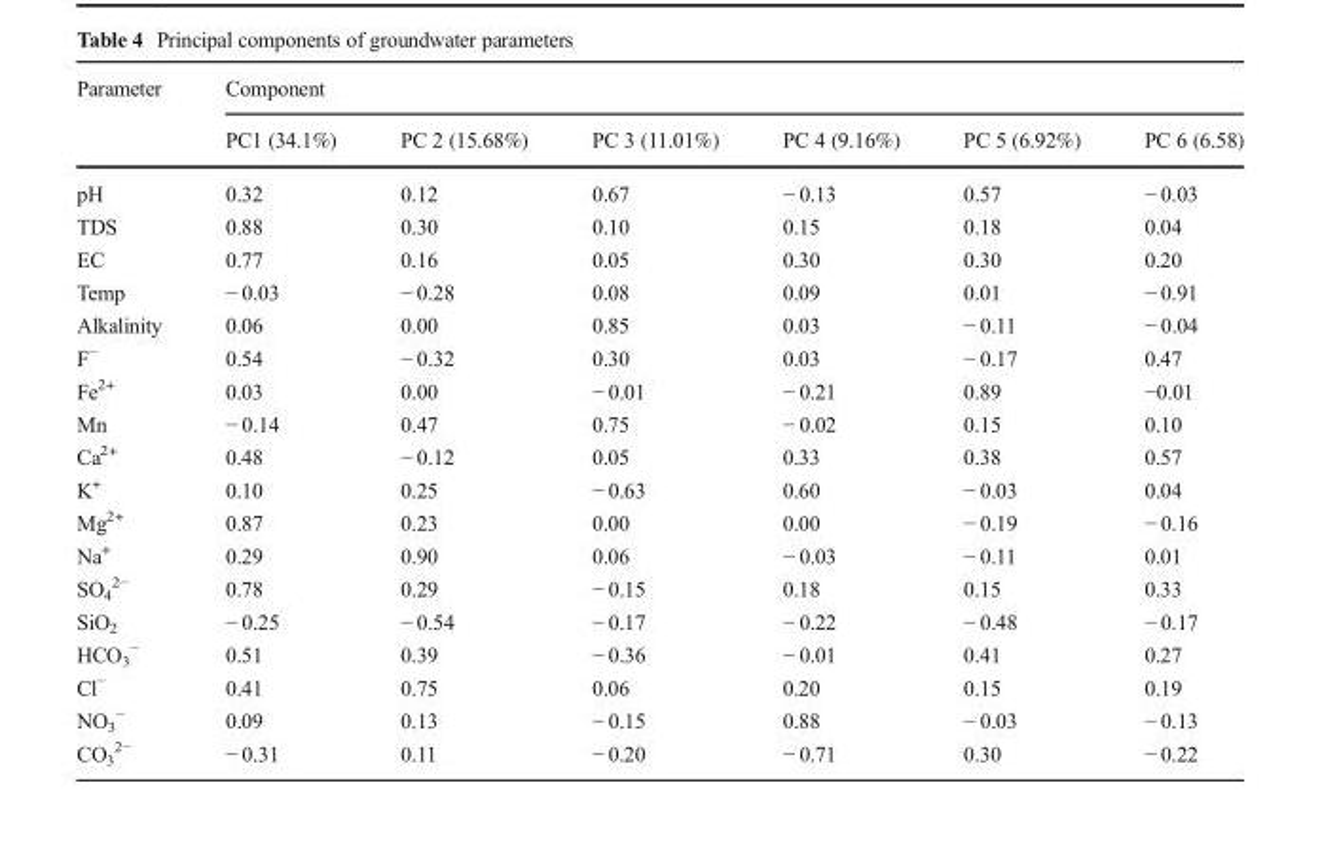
<table><thead><tr><td rowspan="2">Parameter</td><td colspan="6">Component</td></tr><tr><td>PC1 (34.1%)</td><td>PC 2 (15.68%)</td><td>PC 3 (11.01%)</td><td>PC 4 (9.16%)</td><td>PC 5 (6.92%)</td><td>PC 6 (6.58)</td></tr></thead><tbody><tr><td>pH</td><td>0.32</td><td>0.12</td><td>0.67</td><td>− 0.13</td><td>0.57</td><td>− 0.03</td></tr><tr><td>TDS</td><td>0.88</td><td>0.30</td><td>0.10</td><td>0.15</td><td>0.18</td><td>0.04</td></tr><tr><td>EC</td><td>0.77</td><td>0.16</td><td>0.05</td><td>0.30</td><td>0.30</td><td>0.20</td></tr><tr><td>Temp</td><td>− 0.03</td><td>− 0.28</td><td>0.08</td><td>0.09</td><td>0.01</td><td>− 0.91</td></tr><tr><td>Alkalinity</td><td>0.06</td><td>0.00</td><td>0.85</td><td>0.03</td><td>− 0.11</td><td>− 0.04</td></tr><tr><td>F<sup>−</sup></td><td>0.54</td><td>− 0.32</td><td>0.30</td><td>0.03</td><td>− 0.17</td><td>0.47</td></tr><tr><td>Fe<sup>2+</sup></td><td>0.03</td><td>0.00</td><td>− 0.01</td><td>− 0.21</td><td>0.89</td><td>−0.01</td></tr><tr><td>Mn</td><td>− 0.14</td><td>0.47</td><td>0.75</td><td>− 0.02</td><td>0.15</td><td>0.10</td></tr><tr><td>Ca<sup>2+</sup></td><td>0.48</td><td>− 0.12</td><td>0.05</td><td>0.33</td><td>0.38</td><td>0.57</td></tr><tr><td>K<sup>+</sup></td><td>0.10</td><td>0.25</td><td>− 0.63</td><td>0.60</td><td>− 0.03</td><td>0.04</td></tr><tr><td>Mg<sup>2+</sup></td><td>0.87</td><td>0.23</td><td>0.00</td><td>0.00</td><td>− 0.19</td><td>− 0.16</td></tr><tr><td>Na<sup>+</sup></td><td>0.29</td><td>0.90</td><td>0.06</td><td>− 0.03</td><td>− 0.11</td><td>0.01</td></tr><tr><td>SO<sub>4</sub> <sup>2−</sup></td><td>0.78</td><td>0.29</td><td>− 0.15</td><td>0.18</td><td>0.15</td><td>0.33</td></tr><tr><td>SiO<sub>2</sub></td><td>− 0.25</td><td>− 0.54</td><td>− 0.17</td><td>− 0.22</td><td>− 0.48</td><td>− 0.17</td></tr><tr><td>HCO<sub>3</sub> <sup>−</sup></td><td>0.51</td><td>0.39</td><td>− 0.36</td><td>− 0.01</td><td>0.41</td><td>0.27</td></tr><tr><td>Cl<sup>−</sup></td><td>0.41</td><td>0.75</td><td>0.06</td><td>0.20</td><td>0.15</td><td>0.19</td></tr><tr><td>NO<sub>3</sub> <sup>−</sup></td><td>0.09</td><td>0.13</td><td>− 0.15</td><td>0.88</td><td>− 0.03</td><td>− 0.13</td></tr><tr><td>CO<sub>3</sub> <sup>2−</sup></td><td>− 0.31</td><td>0.11</td><td>− 0.20</td><td>− 0.71</td><td>0.30</td><td>− 0.22</td></tr></tbody></table>